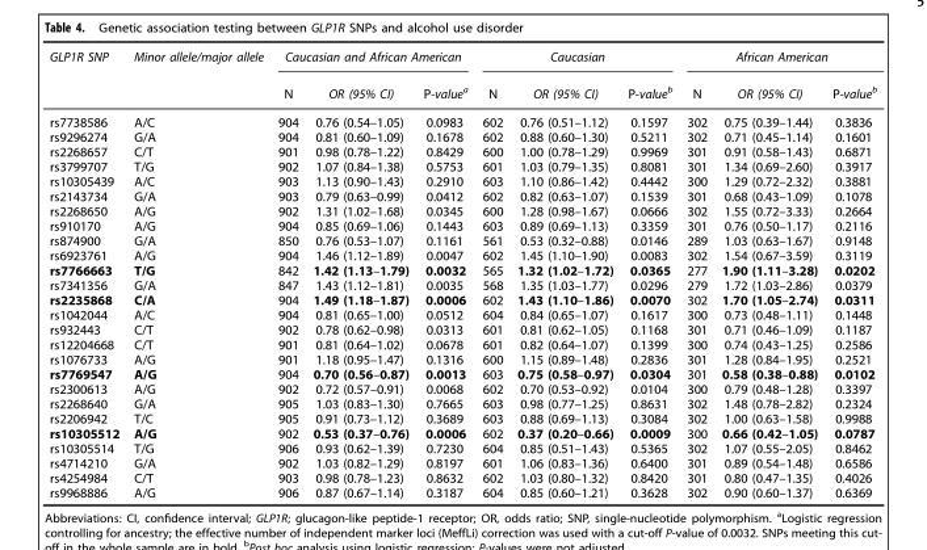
<table><thead><tr><td rowspan="2">GLP1R SNP</td><td rowspan="2">Minor allele/major allele</td><td colspan="3">Caucasian and African American</td><td colspan="3">Caucasian</td><td colspan="3">African American</td></tr><tr><td>N</td><td>OR (95% CI)</td><td>P-value<sup>a</sup></td><td>N</td><td>OR (95% CI)</td><td>P-value<sup>b</sup></td><td>N</td><td>OR (95% CI)</td><td>P-value<sup>b</sup></td></tr></thead><tbody><tr><td>rs7738586</td><td>A/C</td><td>904</td><td>0.76 (0.54–1.05)</td><td>0.0983</td><td>602</td><td>0.76 (0.51–1.12)</td><td>0.1597</td><td>302</td><td>0.75 (0.39–1.44)</td><td>0.3836</td></tr><tr><td>rs9296274</td><td>G/A</td><td>904</td><td>0.81 (0.60–1.09)</td><td>0.1678</td><td>602</td><td>0.88 (0.60–1.30)</td><td>0.5211</td><td>302</td><td>0.71 (0.45–1.14)</td><td>0.1601</td></tr><tr><td>rs2268657</td><td>C/T</td><td>901</td><td>0.98 (0.78–1.22)</td><td>0.8429</td><td>600</td><td>1.00 (0.78–1.29)</td><td>0.9969</td><td>301</td><td>0.91 (0.58–1.43)</td><td>0.6871</td></tr><tr><td>rs3799707</td><td>T/G</td><td>902</td><td>1.07 (0.84–1.38)</td><td>0.5753</td><td>601</td><td>1.03 (0.79–1.35)</td><td>0.8081</td><td>301</td><td>1.34 (0.69–2.60)</td><td>0.3917</td></tr><tr><td>rs10305439</td><td>A/C</td><td>903</td><td>1.13 (0.90–1.43)</td><td>0.2910</td><td>603</td><td>1.10 (0.86–1.42)</td><td>0.4442</td><td>300</td><td>1.29 (0.72–2.32)</td><td>0.3881</td></tr><tr><td>rs2143734</td><td>G/A</td><td>903</td><td>0.79 (0.63–0.99)</td><td>0.0412</td><td>602</td><td>0.82 (0.63–1.07)</td><td>0.1539</td><td>301</td><td>0.68 (0.43–1.09)</td><td>0.1078</td></tr><tr><td>rs2268650</td><td>A/G</td><td>902</td><td>1.31 (1.02–1.68)</td><td>0.0345</td><td>600</td><td>1.28 (0.98–1.67)</td><td>0.0666</td><td>302</td><td>1.55 (0.72–3.33)</td><td>0.2664</td></tr><tr><td>rs910170</td><td>A/G</td><td>904</td><td>0.85 (0.69–1.06)</td><td>0.1443</td><td>603</td><td>0.89 (0.69–1.13)</td><td>0.3359</td><td>301</td><td>0.76 (0.50–1.17)</td><td>0.2116</td></tr><tr><td>rs874900</td><td>G/A</td><td>850</td><td>0.76 (0.53–1.07)</td><td>0.1161</td><td>561</td><td>0.53 (0.32–0.88)</td><td>0.0146</td><td>289</td><td>1.03 (0.63–1.67)</td><td>0.9148</td></tr><tr><td>rs6923761</td><td>A/G</td><td>904</td><td>1.46 (1.12–1.89)</td><td>0.0047</td><td>602</td><td>1.45 (1.10–1.90)</td><td>0.0083</td><td>302</td><td>1.54 (0.67–3.59)</td><td>0.3119</td></tr><tr><td>rs7766663</td><td>T/G</td><td>842</td><td>1.42 (1.13–1.79)</td><td>0.0032</td><td>565</td><td>1.32 (1.02–1.72)</td><td>0.0365</td><td>277</td><td>1.90 (1.11–3.28)</td><td>0.0202</td></tr><tr><td>rs7341356</td><td>G/A</td><td>847</td><td>1.43 (1.12–1.81)</td><td>0.0035</td><td>568</td><td>1.35 (1.03–1.77)</td><td>0.0296</td><td>279</td><td>1.72 (1.03–2.86)</td><td>0.0379</td></tr><tr><td>rs2235868</td><td>C/A</td><td>904</td><td>1.49 (1.18–1.87)</td><td>0.0006</td><td>602</td><td>1.43 (1.10–1.86)</td><td>0.0070</td><td>302</td><td>1.70 (1.05–2.74)</td><td>0.0311</td></tr><tr><td>rs1042044</td><td>A/C</td><td>904</td><td>0.81 (0.65–1.00)</td><td>0.0512</td><td>604</td><td>0.84 (0.65–1.07)</td><td>0.1617</td><td>300</td><td>0.73 (0.48–1.11)</td><td>0.1448</td></tr><tr><td>rs932443</td><td>C/T</td><td>902</td><td>0.78 (0.62–0.98)</td><td>0.0313</td><td>601</td><td>0.81 (0.62–1.05)</td><td>0.1168</td><td>301</td><td>0.71 (0.46–1.09)</td><td>0.1187</td></tr><tr><td>rs12204668</td><td>C/T</td><td>901</td><td>0.81 (0.64–1.02)</td><td>0.0678</td><td>601</td><td>0.82 (0.64–1.07)</td><td>0.1399</td><td>300</td><td>0.74 (0.43–1.25)</td><td>0.2586</td></tr><tr><td>rs1076733</td><td>A/G</td><td>901</td><td>1.18 (0.95–1.47)</td><td>0.1316</td><td>600</td><td>1.15 (0.89–1.48)</td><td>0.2836</td><td>301</td><td>1.28 (0.84–1.95)</td><td>0.2521</td></tr><tr><td>rs7769547</td><td>A/G</td><td>904</td><td>0.70 (0.56–0.87)</td><td>0.0013</td><td>603</td><td>0.75 (0.58–0.97)</td><td>0.0304</td><td>301</td><td>0.58 (0.38–0.88)</td><td>0.0102</td></tr><tr><td>rs2300613</td><td>A/G</td><td>902</td><td>0.72 (0.57–0.91)</td><td>0.0068</td><td>602</td><td>0.70 (0.53–0.92)</td><td>0.0104</td><td>300</td><td>0.79 (0.48–1.28)</td><td>0.3397</td></tr><tr><td>rs2268640</td><td>G/A</td><td>905</td><td>1.03 (0.83–1.30)</td><td>0.7665</td><td>603</td><td>0.98 (0.77–1.25)</td><td>0.8631</td><td>302</td><td>1.48 (0.78–2.82)</td><td>0.2324</td></tr><tr><td>rs2206942</td><td>T/C</td><td>905</td><td>0.91 (0.73–1.12)</td><td>0.3689</td><td>603</td><td>0.88 (0.69–1.13)</td><td>0.3084</td><td>302</td><td>1.00 (0.63–1.58)</td><td>0.9988</td></tr><tr><td>rs10305512</td><td>A/G</td><td>902</td><td>0.53 (0.37–0.76)</td><td>0.0006</td><td>602</td><td>0.37 (0.20–0.66)</td><td>0.0009</td><td>300</td><td>0.66 (0.42–1.05)</td><td>0.0787</td></tr><tr><td>rs10305514</td><td>T/G</td><td>906</td><td>0.93 (0.62–1.39)</td><td>0.7230</td><td>604</td><td>0.85 (0.51–1.43)</td><td>0.5365</td><td>302</td><td>1.07 (0.55–2.05)</td><td>0.8462</td></tr><tr><td>rs4714210</td><td>G/A</td><td>902</td><td>1.03 (0.82–1.29)</td><td>0.8197</td><td>601</td><td>1.06 (0.83–1.36)</td><td>0.6400</td><td>301</td><td>0.89 (0.54–1.48)</td><td>0.6586</td></tr><tr><td>rs4254984</td><td>C/T</td><td>903</td><td>0.98 (0.78–1.23)</td><td>0.8632</td><td>602</td><td>1.03 (0.80–1.32)</td><td>0.8420</td><td>301</td><td>0.80 (0.47–1.35)</td><td>0.4026</td></tr><tr><td>rs9968886</td><td>A/G</td><td>906</td><td>0.87 (0.67–1.14)</td><td>0.3187</td><td>604</td><td>0.85 (0.60–1.21)</td><td>0.3628</td><td>302</td><td>0.90 (0.60–1.37)</td><td>0.6369</td></tr></tbody></table>